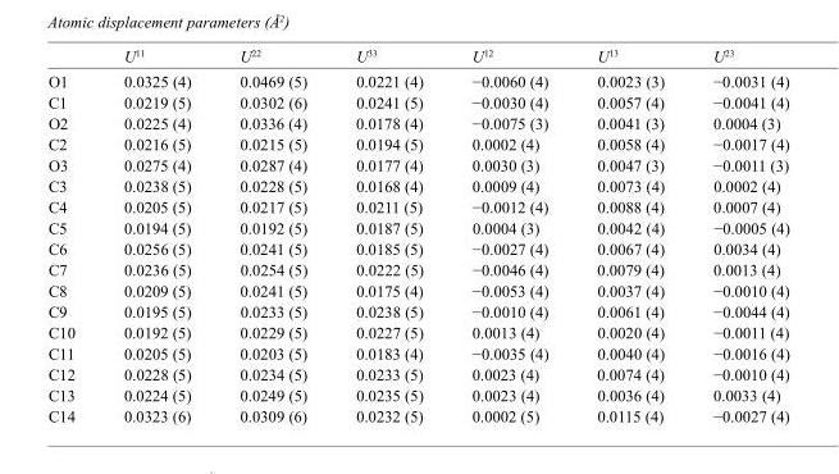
<table><thead><tr><td></td><td>U<sup>11</sup></td><td>U<sup>22</sup></td><td>U<sup>33</sup></td><td>U<sup>12</sup></td><td>U<sup>13</sup></td><td>U<sup>23</sup></td></tr></thead><tbody><tr><td>O1</td><td>0.0325 (4)</td><td>0.0469 (5)</td><td>0.0221 (4)</td><td>−0.0060 (4)</td><td>0.0023 (3)</td><td>−0.0031 (4)</td></tr><tr><td>C1</td><td>0.0219 (5)</td><td>0.0302 (6)</td><td>0.0241 (5)</td><td>−0.0030 (4)</td><td>0.0057 (4)</td><td>−0.0041 (4)</td></tr><tr><td>O2</td><td>0.0225 (4)</td><td>0.0336 (4)</td><td>0.0178 (4)</td><td>−0.0075 (3)</td><td>0.0041 (3)</td><td>0.0004 (3)</td></tr><tr><td>C2</td><td>0.0216 (5)</td><td>0.0215 (5)</td><td>0.0194 (5)</td><td>0.0002 (4)</td><td>0.0058 (4)</td><td>−0.0017 (4)</td></tr><tr><td>O3</td><td>0.0275 (4)</td><td>0.0287 (4)</td><td>0.0177 (4)</td><td>0.0030 (3)</td><td>0.0047 (3)</td><td>−0.0011 (3)</td></tr><tr><td>C3</td><td>0.0238 (5)</td><td>0.0228 (5)</td><td>0.0168 (4)</td><td>0.0009 (4)</td><td>0.0073 (4)</td><td>0.0002 (4)</td></tr><tr><td>C4</td><td>0.0205 (5)</td><td>0.0217 (5)</td><td>0.0211 (5)</td><td>−0.0012 (4)</td><td>0.0088 (4)</td><td>0.0007 (4)</td></tr><tr><td>C5</td><td>0.0194 (5)</td><td>0.0192 (5)</td><td>0.0187 (5)</td><td>0.0004 (3)</td><td>0.0042 (4)</td><td>−0.0005 (4)</td></tr><tr><td>C6</td><td>0.0256 (5)</td><td>0.0241 (5)</td><td>0.0185 (5)</td><td>−0.0027 (4)</td><td>0.0067 (4)</td><td>0.0034 (4)</td></tr><tr><td>C7</td><td>0.0236 (5)</td><td>0.0254 (5)</td><td>0.0222 (5)</td><td>−0.0046 (4)</td><td>0.0079 (4)</td><td>0.0013 (4)</td></tr><tr><td>C8</td><td>0.0209 (5)</td><td>0.0241 (5)</td><td>0.0175 (4)</td><td>−0.0053 (4)</td><td>0.0037 (4)</td><td>−0.0010 (4)</td></tr><tr><td>C9</td><td>0.0195 (5)</td><td>0.0233 (5)</td><td>0.0238 (5)</td><td>−0.0010 (4)</td><td>0.0061 (4)</td><td>−0.0044 (4)</td></tr><tr><td>C10</td><td>0.0192 (5)</td><td>0.0229 (5)</td><td>0.0227 (5)</td><td>0.0013 (4)</td><td>0.0020 (4)</td><td>−0.0011 (4)</td></tr><tr><td>C11</td><td>0.0205 (5)</td><td>0.0203 (5)</td><td>0.0183 (4)</td><td>−0.0035 (4)</td><td>0.0040 (4)</td><td>−0.0016 (4)</td></tr><tr><td>C12</td><td>0.0228 (5)</td><td>0.0234 (5)</td><td>0.0233 (5)</td><td>0.0023 (4)</td><td>0.0074 (4)</td><td>−0.0010 (4)</td></tr><tr><td>C13</td><td>0.0224 (5)</td><td>0.0249 (5)</td><td>0.0235 (5)</td><td>0.0023 (4)</td><td>0.0036 (4)</td><td>0.0033 (4)</td></tr><tr><td>C14</td><td>0.0323 (6)</td><td>0.0309 (6)</td><td>0.0232 (5)</td><td>0.0002 (5)</td><td>0.0115 (4)</td><td>−0.0027 (4)</td></tr></tbody></table>